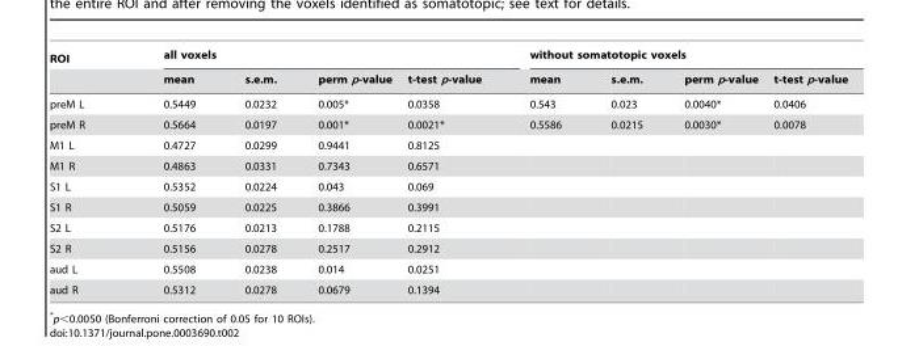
<table><thead><tr><td rowspan="2">ROI</td><td colspan="4">all voxels</td><td colspan="4">without somatotopic voxels</td></tr><tr><td>mean</td><td>s.e.m.</td><td>perm p-value</td><td>t-test p-value</td><td>mean</td><td>s.e.m.</td><td>perm p-value</td><td>t-test p-value</td></tr></thead><tbody><tr><td>preM L</td><td>0.5449</td><td>0.0232</td><td>0.005*</td><td>0.0358</td><td>0.543</td><td>0.023</td><td>0.0040*</td><td>0.0406</td></tr><tr><td>preM R</td><td>0.5664</td><td>0.0197</td><td>0.001*</td><td>0.0021*</td><td>0.5586</td><td>0.0215</td><td>0.0030*</td><td>0.0078</td></tr><tr><td>M1 L</td><td>0.4727</td><td>0.0299</td><td>0.9441</td><td>0.8125</td><td></td><td></td><td></td><td></td></tr><tr><td>M1 R</td><td>0.4863</td><td>0.0331</td><td>0.7343</td><td>0.6571</td><td></td><td></td><td></td><td></td></tr><tr><td>S1 L</td><td>0.5352</td><td>0.0224</td><td>0.043</td><td>0.069</td><td></td><td></td><td></td><td></td></tr><tr><td>S1 R</td><td>0.5059</td><td>0.0225</td><td>0.3866</td><td>0.3991</td><td></td><td></td><td></td><td></td></tr><tr><td>S2 L</td><td>0.5176</td><td>0.0213</td><td>0.1788</td><td>0.2115</td><td></td><td></td><td></td><td></td></tr><tr><td>S2 R</td><td>0.5156</td><td>0.0278</td><td>0.2517</td><td>0.2912</td><td></td><td></td><td></td><td></td></tr><tr><td>aud L</td><td>0.5508</td><td>0.0238</td><td>0.014</td><td>0.0251</td><td></td><td></td><td></td><td></td></tr><tr><td>aud R</td><td>0.5312</td><td>0.0278</td><td>0.0679</td><td>0.1394</td><td></td><td></td><td></td><td></td></tr></tbody></table>